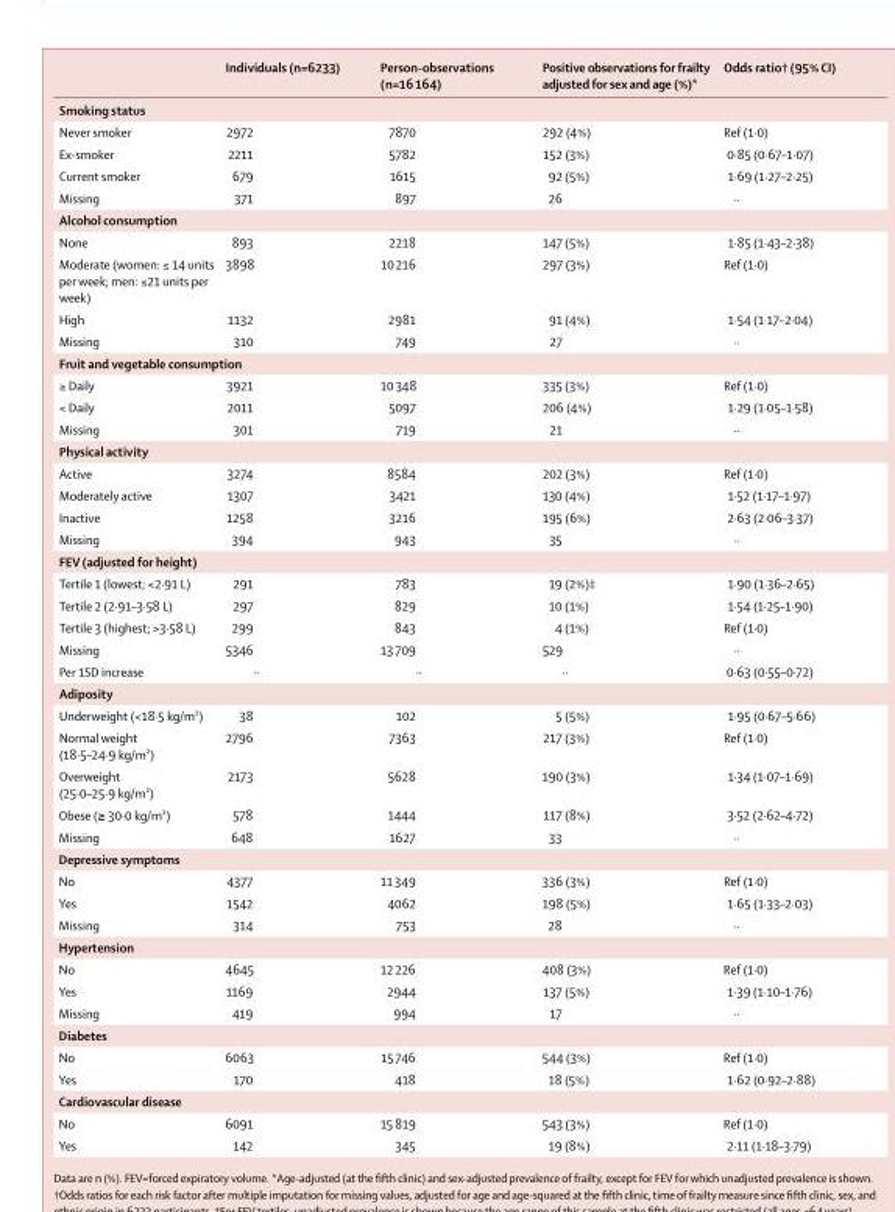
<table><thead><tr><td></td><td>Individuals (n=6233)</td><td>Person-observations (n=16 164)</td><td>Positive observations for frailty adjusted for sex and age (%)*</td><td>Odds ratio† (95% CI)</td></tr></thead><tbody><tr><td colspan="5">Smoking status</td></tr><tr><td>Never smoker</td><td>2972</td><td>7870</td><td>292 (4%)</td><td>Ref (1·0)</td></tr><tr><td>Ex-smoker</td><td>2211</td><td>5782</td><td>152 (3%)</td><td>0·85 (0·67–1·07)</td></tr><tr><td>Current smoker</td><td>679</td><td>1615</td><td>92 (5%)</td><td>1·69 (1·27–2·25)</td></tr><tr><td>Missing</td><td>371</td><td>897</td><td>26</td><td>··</td></tr><tr><td colspan="5">Alcohol consumption</td></tr><tr><td>None</td><td>893</td><td>2218</td><td>147 (5%)</td><td>1·85 (1·43–2·38)</td></tr><tr><td>Moderate (women: ≤ 14 units per week; men: ≤21 units per week)</td><td>3898</td><td>10 216</td><td>297 (3%)</td><td>Ref (1·0)</td></tr><tr><td>High</td><td>1132</td><td>2981</td><td>91 (4%)</td><td>1·54 (1·17–2·04)</td></tr><tr><td>Missing</td><td>310</td><td>749</td><td>27</td><td>··</td></tr><tr><td colspan="5">Fruit and vegetable consumption</td></tr><tr><td>≥ Daily</td><td>3921</td><td>10 348</td><td>335 (3%)</td><td>Ref (1·0)</td></tr><tr><td>&lt; Daily</td><td>2011</td><td>5097</td><td>206 (4%)</td><td>1·29 (1·05–1·58)</td></tr><tr><td>Missing</td><td>301</td><td>719</td><td>21</td><td>··</td></tr><tr><td colspan="5">Physical activity</td></tr><tr><td>Active</td><td>3274</td><td>8584</td><td>202 (3%)</td><td>Ref (1·0)</td></tr><tr><td>Moderately active</td><td>1307</td><td>3421</td><td>130 (4%)</td><td>1·52 (1·17–1·97)</td></tr><tr><td>Inactive</td><td>1258</td><td>3216</td><td>195 (6%)</td><td>2·63 (2·06–3·37)</td></tr><tr><td>Missing</td><td>394</td><td>943</td><td>35</td><td>··</td></tr><tr><td colspan="5">FEV (adjusted for height)</td></tr><tr><td>Tertile 1 (lowest; &lt;2·91 L)</td><td>291</td><td>783</td><td>19 (2%)‡</td><td>1·90 (1·36–2·65)</td></tr><tr><td>Tertile 2 (2·91–3·58 L)</td><td>297</td><td>829</td><td>10 (1%)</td><td>1·54 (1·25–1·90)</td></tr><tr><td>Tertile 3 (highest; &gt;3·58 L)</td><td>299</td><td>843</td><td>4 (1%)</td><td>Ref (1·0)</td></tr><tr><td>Missing</td><td>5346</td><td>13 709</td><td>529</td><td>··</td></tr><tr><td>Per 1SD increase</td><td>··</td><td>··</td><td>··</td><td>0·63 (0·55–0·72)</td></tr><tr><td colspan="5">Adiposity</td></tr><tr><td>Underweight (&lt;18·5 kg/m²)</td><td>38</td><td>102</td><td>5 (5%)</td><td>1·95 (0·67–5·66)</td></tr><tr><td>Normal weight (18·5–24·9 kg/m²)</td><td>2796</td><td>7363</td><td>217 (3%)</td><td>Ref (1·0)</td></tr><tr><td>Overweight (25·0–25·9 kg/m²)</td><td>2173</td><td>5628</td><td>190 (3%)</td><td>1·34 (1·07–1·69)</td></tr><tr><td>Obese (≥ 30·0 kg/m²)</td><td>578</td><td>1444</td><td>117 (8%)</td><td>3·52 (2·62–4·72)</td></tr><tr><td>Missing</td><td>648</td><td>1627</td><td>33</td><td>··</td></tr><tr><td colspan="5">Depressive symptoms</td></tr><tr><td>No</td><td>4377</td><td>11 349</td><td>336 (3%)</td><td>Ref (1·0)</td></tr><tr><td>Yes</td><td>1542</td><td>4062</td><td>198 (5%)</td><td>1·65 (1·33–2·03)</td></tr><tr><td>Missing</td><td>314</td><td>753</td><td>28</td><td>··</td></tr><tr><td colspan="5">Hypertension</td></tr><tr><td>No</td><td>4645</td><td>12 226</td><td>408 (3%)</td><td>Ref (1·0)</td></tr><tr><td>Yes</td><td>1169</td><td>2944</td><td>137 (5%)</td><td>1·39 (1·10–1·76)</td></tr><tr><td>Missing</td><td>419</td><td>994</td><td>17</td><td>··</td></tr><tr><td colspan="5">Diabetes</td></tr><tr><td>No</td><td>6063</td><td>15 746</td><td>544 (3%)</td><td>Ref (1·0)</td></tr><tr><td>Yes</td><td>170</td><td>418</td><td>18 (5%)</td><td>1·62 (0·92–2·88)</td></tr><tr><td colspan="5">Cardiovascular disease</td></tr><tr><td>No</td><td>6091</td><td>15 819</td><td>543 (3%)</td><td>Ref (1·0)</td></tr><tr><td>Yes</td><td>142</td><td>345</td><td>19 (8%)</td><td>2·11 (1·18–3·79)</td></tr></tbody></table>